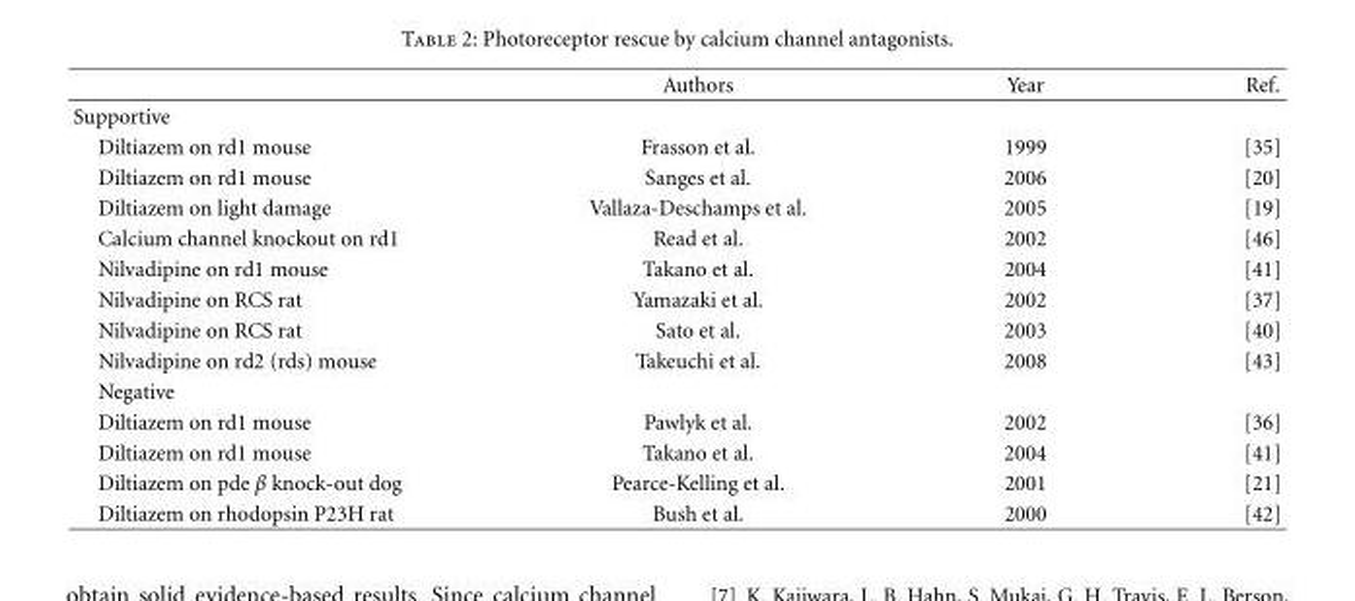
<table><thead><tr><td></td><td>Authors</td><td>Year</td><td>Ref.</td></tr></thead><tbody><tr><td colspan="4">Supportive</td></tr><tr><td>Diltiazem on rd1 mouse</td><td>Frasson et al.</td><td>1999</td><td>[35]</td></tr><tr><td>Diltiazem on rd1 mouse</td><td>Sanges et al.</td><td>2006</td><td>[20]</td></tr><tr><td>Diltiazem on light damage</td><td>Vallaza-Deschamps et al.</td><td>2005</td><td>[19]</td></tr><tr><td>Calcium channel knockout on rd1</td><td>Read et al.</td><td>2002</td><td>[46]</td></tr><tr><td>Nilvadipine on rd1 mouse</td><td>Takano et al.</td><td>2004</td><td>[41]</td></tr><tr><td>Nilvadipine on RCS rat</td><td>Yamazaki et al.</td><td>2002</td><td>[37]</td></tr><tr><td>Nilvadipine on RCS rat</td><td>Sato et al.</td><td>2003</td><td>[40]</td></tr><tr><td>Nilvadipine on rd2 (rds) mouse</td><td>Takeuchi et al.</td><td>2008</td><td>[43]</td></tr><tr><td colspan="4">Negative</td></tr><tr><td>Diltiazem on rd1 mouse</td><td>Pawlyk et al.</td><td>2002</td><td>[36]</td></tr><tr><td>Diltiazem on rd1 mouse</td><td>Takano et al.</td><td>2004</td><td>[41]</td></tr><tr><td>Diltiazem on pde β knock-out dog</td><td>Pearce-Kelling et al.</td><td>2001</td><td>[21]</td></tr><tr><td>Diltiazem on rhodopsin P23H rat</td><td>Bush et al.</td><td>2000</td><td>[42]</td></tr></tbody></table>